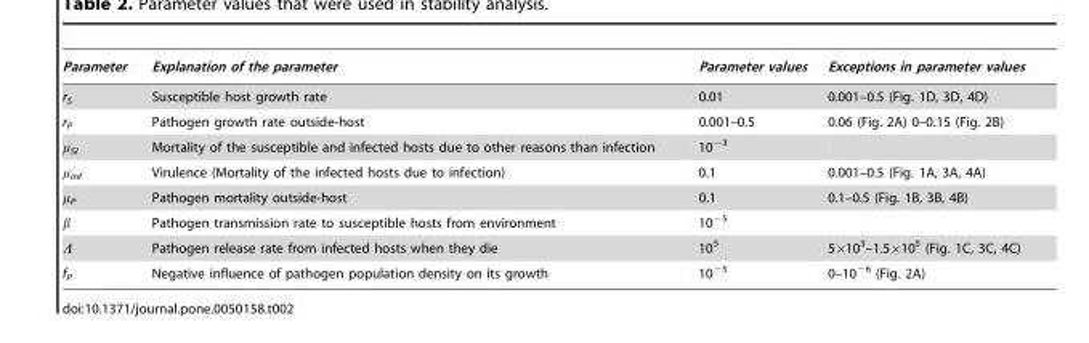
<table><thead><tr><td>Parameter</td><td>Explanation of the parameter</td><td>Parameter values</td><td>Exceptions in parameter values</td></tr></thead><tbody><tr><td>r<sub>S</sub></td><td>Susceptible host growth rate</td><td>0.01</td><td>0.001–0.5 (Fig. 1D, 3D, 4D)</td></tr><tr><td>r<sub>P</sub></td><td>Pathogen growth rate outside-host</td><td>0.001–0.5</td><td>0.06 (Fig. 2A) 0–0.15 (Fig. 2B)</td></tr><tr><td>μ<sub>SI</sub></td><td>Mortality of the susceptible and infected hosts due to other reasons than infection</td><td>10<sup>−3</sup></td><td></td></tr><tr><td>μ<sub>inf</sub></td><td>Virulence (Mortality of the infected hosts due to infection)</td><td>0.1</td><td>0.001–0.5 (Fig. 1A, 3A, 4A)</td></tr><tr><td>μ<sub>P</sub></td><td>Pathogen mortality outside-host</td><td>0.1</td><td>0.1–0.5 (Fig. 1B, 3B, 4B)</td></tr><tr><td>β</td><td>Pathogen transmission rate to susceptible hosts from environment</td><td>10<sup>−5</sup></td><td></td></tr><tr><td>Λ</td><td>Pathogen release rate from infected hosts when they die</td><td>10<sup>5</sup></td><td>5×10<sup>3</sup>–1.5×10<sup>5</sup> (Fig. 1C, 3C, 4C)</td></tr><tr><td>f<sub>P</sub></td><td>Negative influence of pathogen population density on its growth</td><td>10<sup>−5</sup></td><td>0–10<sup>−6</sup> (Fig. 2A)</td></tr></tbody></table>